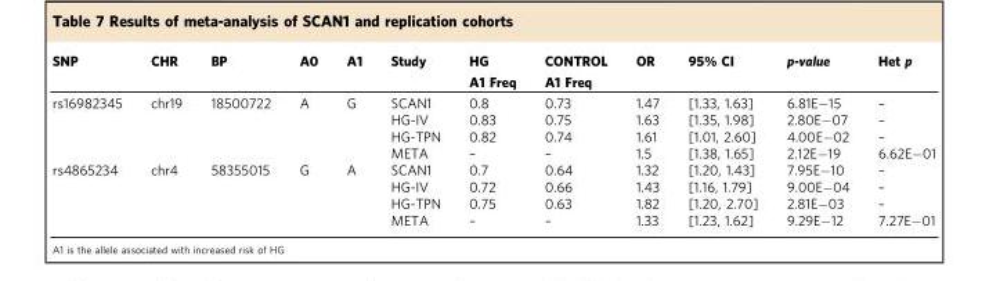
<table><thead><tr><td rowspan="2">SNP</td><td rowspan="2">CHR</td><td rowspan="2">BP</td><td rowspan="2">A0</td><td rowspan="2">A1</td><td rowspan="2">Study</td><td rowspan="2">HG A1 Freq</td><td rowspan="2">CONTROL A1 Freq</td><td rowspan="2">OR</td><td rowspan="2">95% CI</td><td rowspan="2">p-value</td><td rowspan="2">Het p</td></tr><tr></tr></thead><tbody><tr><td rowspan="4">rs16982345</td><td rowspan="4">chr19</td><td rowspan="4">18500722</td><td rowspan="4">A</td><td rowspan="4">G</td><td>SCAN1</td><td>0.8</td><td>0.73</td><td>1.47</td><td>[1.33, 1.63]</td><td>6.81E−15</td><td>–</td></tr><tr><td>HG-IV</td><td>0.83</td><td>0.75</td><td>1.63</td><td>[1.35, 1.98]</td><td>2.80E−07</td><td>–</td></tr><tr><td>HG-TPN</td><td>0.82</td><td>0.74</td><td>1.61</td><td>[1.01, 2.60]</td><td>4.00E−02</td><td>–</td></tr><tr><td>META</td><td>–</td><td>–</td><td>1.5</td><td>[1.38, 1.65]</td><td>2.12E−19</td><td>6.62E−01</td></tr><tr><td rowspan="4">rs4865234</td><td rowspan="4">chr4</td><td rowspan="4">58355015</td><td rowspan="4">G</td><td rowspan="4">A</td><td>SCAN1</td><td>0.7</td><td>0.64</td><td>1.32</td><td>[1.20, 1.43]</td><td>7.95E−10</td><td>–</td></tr><tr><td>HG-IV</td><td>0.72</td><td>0.66</td><td>1.43</td><td>[1.16, 1.79]</td><td>9.00E−04</td><td>–</td></tr><tr><td>HG-TPN</td><td>0.75</td><td>0.63</td><td>1.82</td><td>[1.20, 2.70]</td><td>2.81E−03</td><td>–</td></tr><tr><td>META</td><td>–</td><td>–</td><td>1.33</td><td>[1.23, 1.62]</td><td>9.29E−12</td><td>7.27E−01</td></tr></tbody></table>